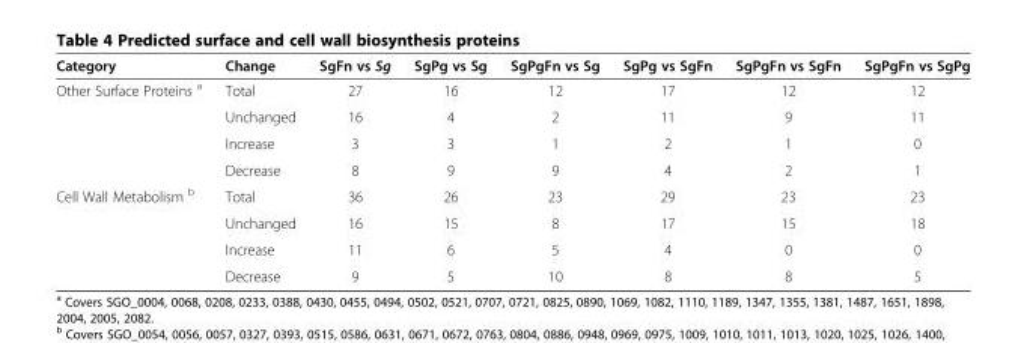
<table><thead><tr><td>Category</td><td>Change</td><td>SgFn vs Sg</td><td>SgPg vs Sg</td><td>SgPgFn vs Sg</td><td>SgPg vs SgFn</td><td>SgPgFn vs SgFn</td><td>SgPgFn vs SgPg</td></tr></thead><tbody><tr><td rowspan="4">Other Surface Proteins <sup>a</sup></td><td>Total</td><td>27</td><td>16</td><td>12</td><td>17</td><td>12</td><td>12</td></tr><tr><td>Unchanged</td><td>16</td><td>4</td><td>2</td><td>11</td><td>9</td><td>11</td></tr><tr><td>Increase</td><td>3</td><td>3</td><td>1</td><td>2</td><td>1</td><td>0</td></tr><tr><td>Decrease</td><td>8</td><td>9</td><td>9</td><td>4</td><td>2</td><td>1</td></tr><tr><td rowspan="4">Cell Wall Metabolism <sup>b</sup></td><td>Total</td><td>36</td><td>26</td><td>23</td><td>29</td><td>23</td><td>23</td></tr><tr><td>Unchanged</td><td>16</td><td>15</td><td>8</td><td>17</td><td>15</td><td>18</td></tr><tr><td>Increase</td><td>11</td><td>6</td><td>5</td><td>4</td><td>0</td><td>0</td></tr><tr><td>Decrease</td><td>9</td><td>5</td><td>10</td><td>8</td><td>8</td><td>5</td></tr></tbody></table>